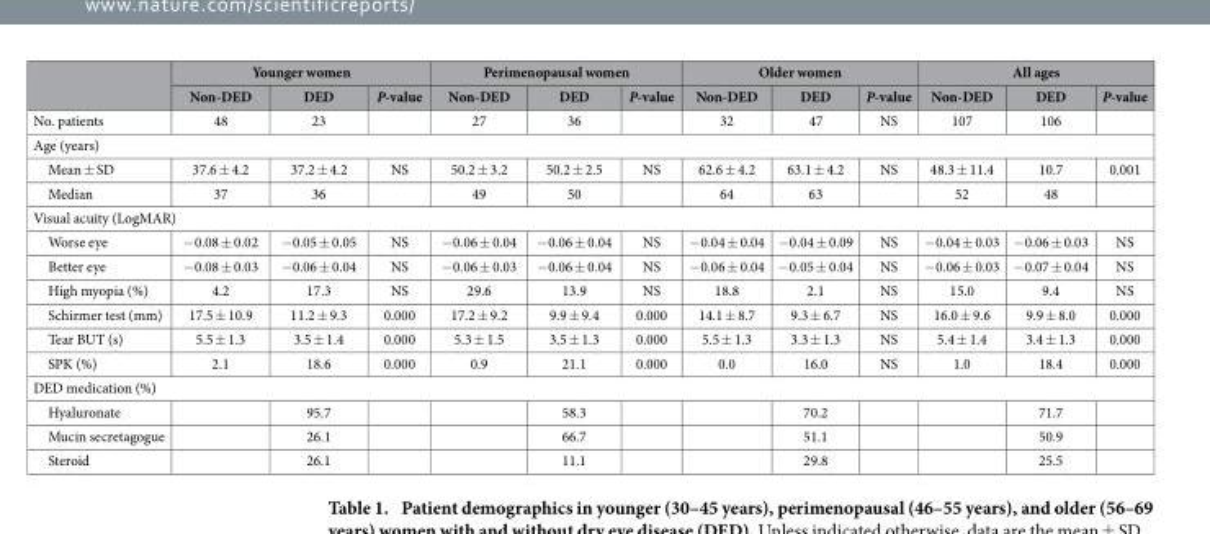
<table><thead><tr><td rowspan="2"></td><td colspan="3">Younger women</td><td colspan="3">Perimenopausal women</td><td colspan="3">Older women</td><td colspan="3">All ages</td></tr><tr><td>Non-DED</td><td>DED</td><td>P-value</td><td>Non-DED</td><td>DED</td><td>P-value</td><td>Non-DED</td><td>DED</td><td>P-value</td><td>Non-DED</td><td>DED</td><td>P-value</td></tr></thead><tbody><tr><td>No. patients</td><td>48</td><td>23</td><td></td><td>27</td><td>36</td><td></td><td>32</td><td>47</td><td>NS</td><td>107</td><td>106</td><td></td></tr><tr><td colspan="13">Age (years)</td></tr><tr><td>Mean ± SD</td><td>37.6 ± 4.2</td><td>37.2 ± 4.2</td><td>NS</td><td>50.2 ± 3.2</td><td>50.2 ± 2.5</td><td>NS</td><td>62.6 ± 4.2</td><td>63.1 ± 4.2</td><td>NS</td><td>48.3 ± 11.4</td><td>10.7</td><td>0.001</td></tr><tr><td>Median</td><td>37</td><td>36</td><td></td><td>49</td><td>50</td><td></td><td>64</td><td>63</td><td></td><td>52</td><td>48</td><td></td></tr><tr><td colspan="13">Visual acuity (LogMAR)</td></tr><tr><td>Worse eye</td><td>− 0.08 ± 0.02</td><td>− 0.05 ± 0.05</td><td>NS</td><td>− 0.06 ± 0.04</td><td>− 0.06 ± 0.04</td><td>NS</td><td>− 0.04 ± 0.04</td><td>− 0.04 ± 0.09</td><td>NS</td><td>− 0.04 ± 0.03</td><td>− 0.06 ± 0.03</td><td>NS</td></tr><tr><td>Better eye</td><td>− 0.08 ± 0.03</td><td>− 0.06 ± 0.04</td><td>NS</td><td>− 0.06 ± 0.03</td><td>− 0.06 ± 0.04</td><td>NS</td><td>− 0.06 ± 0.04</td><td>− 0.05 ± 0.04</td><td>NS</td><td>− 0.06 ± 0.03</td><td>− 0.07 ± 0.04</td><td>NS</td></tr><tr><td>High myopia (%)</td><td>4.2</td><td>17.3</td><td>NS</td><td>29.6</td><td>13.9</td><td>NS</td><td>18.8</td><td>2.1</td><td>NS</td><td>15.0</td><td>9.4</td><td>NS</td></tr><tr><td>Schirmer test (mm)</td><td>17.5 ± 10.9</td><td>11.2 ± 9.3</td><td>0.000</td><td>17.2 ± 9.2</td><td>9.9 ± 9.4</td><td>0.000</td><td>14.1 ± 8.7</td><td>9.3 ± 6.7</td><td>NS</td><td>16.0 ± 9.6</td><td>9.9 ± 8.0</td><td>0.000</td></tr><tr><td>Tear BUT (s)</td><td>5.5 ± 1.3</td><td>3.5 ± 1.4</td><td>0.000</td><td>5.3 ± 1.5</td><td>3.5 ± 1.3</td><td>0.000</td><td>5.5 ± 1.3</td><td>3.3 ± 1.3</td><td>NS</td><td>5.4 ± 1.4</td><td>3.4 ± 1.3</td><td>0.000</td></tr><tr><td>SPK (%)</td><td>2.1</td><td>18.6</td><td>0.000</td><td>0.9</td><td>21.1</td><td>0.000</td><td>0.0</td><td>16.0</td><td>NS</td><td>1.0</td><td>18.4</td><td>0.000</td></tr><tr><td colspan="13">DED medication (%)</td></tr><tr><td>Hyaluronate</td><td></td><td>95.7</td><td></td><td></td><td>58.3</td><td></td><td></td><td>70.2</td><td></td><td></td><td>71.7</td><td></td></tr><tr><td>Mucin secretagogue</td><td></td><td>26.1</td><td></td><td></td><td>66.7</td><td></td><td></td><td>51.1</td><td></td><td></td><td>50.9</td><td></td></tr><tr><td>Steroid</td><td></td><td>26.1</td><td></td><td></td><td>11.1</td><td></td><td></td><td>29.8</td><td></td><td></td><td>25.5</td><td></td></tr></tbody></table>